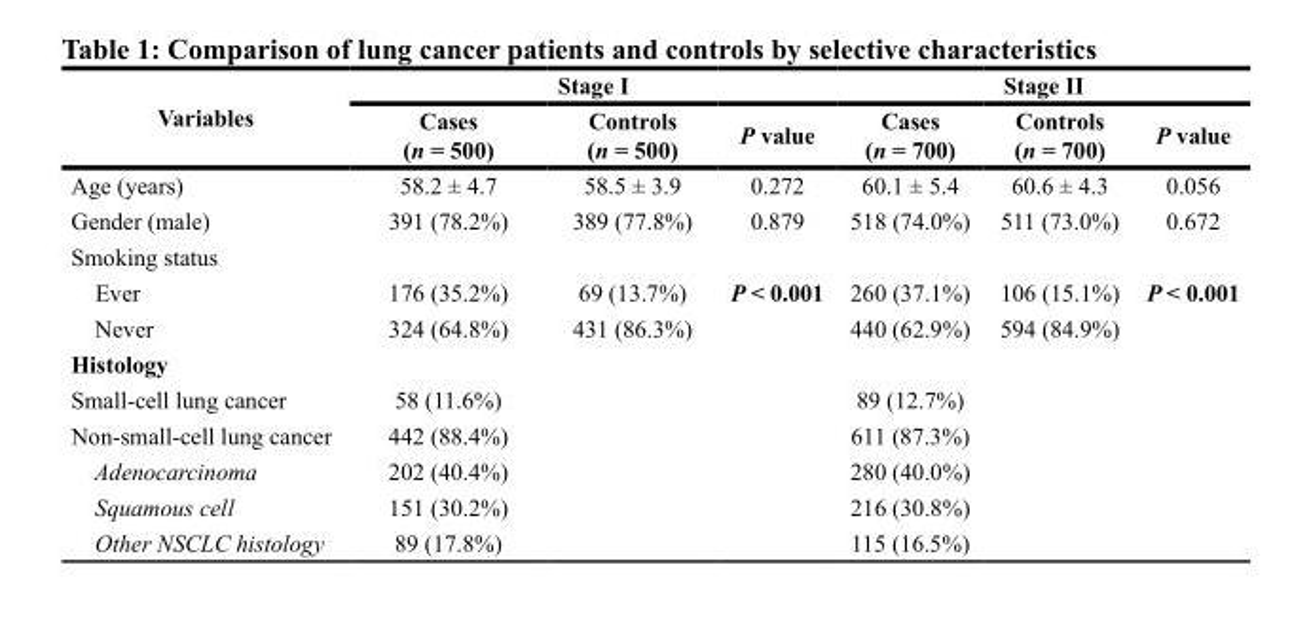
<table><thead><tr><td rowspan="2">Variables</td><td colspan="3">stage I</td><td colspan="3">stage II</td></tr><tr><td>cases (n = 500)</td><td>controls (n = 500)</td><td>P value</td><td>cases (n = 700)</td><td>controls (n = 700)</td><td>P value</td></tr></thead><tbody><tr><td>Age (years)</td><td>58.2 ± 4.7</td><td>58.5 ± 3.9</td><td>0.272</td><td>60.1 ± 5.4</td><td>60.6 ± 4.3</td><td>0.056</td></tr><tr><td>Gender (male)</td><td>391 (78.2%)</td><td>389 (77.8%)</td><td>0.879</td><td>518 (74.0%)</td><td>511 (73.0%)</td><td>0.672</td></tr><tr><td colspan="7">Smoking status</td></tr><tr><td>Ever</td><td>176 (35.2%)</td><td>69 (13.7%)</td><td>P &lt; 0.001</td><td>260 (37.1%)</td><td>106 (15.1%)</td><td>P &lt; 0.001</td></tr><tr><td>Never</td><td>324 (64.8%)</td><td>431 (86.3%)</td><td></td><td>440 (62.9%)</td><td>594 (84.9%)</td><td></td></tr><tr><td colspan="7">Histology</td></tr><tr><td>Small-cell lung cancer</td><td>58 (11.6%)</td><td></td><td></td><td>89 (12.7%)</td><td></td><td></td></tr><tr><td>Non-small-cell lung cancer</td><td>442 (88.4%)</td><td></td><td></td><td>611 (87.3%)</td><td></td><td></td></tr><tr><td>Adenocarcinoma</td><td>202 (40.4%)</td><td></td><td></td><td>280 (40.0%)</td><td></td><td></td></tr><tr><td>Squamous cell</td><td>151 (30.2%)</td><td></td><td></td><td>216 (30.8%)</td><td></td><td></td></tr><tr><td>Other NSCLC histology</td><td>89 (17.8%)</td><td></td><td></td><td>115 (16.5%)</td><td></td><td></td></tr></tbody></table>